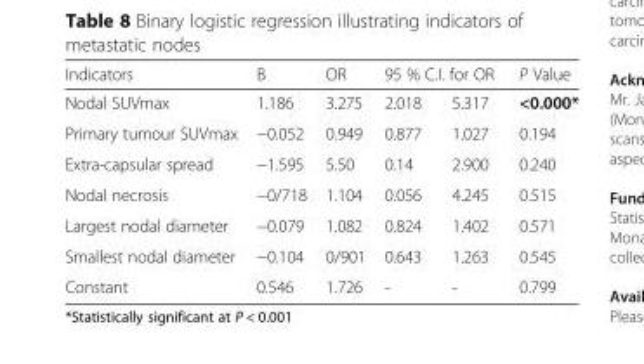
<table><thead><tr><td rowspan="2">Indicators Nodal SUVmax</td><td rowspan="2">B 1.186</td><td rowspan="2">OR 3.275</td><td colspan="2">95 % C.I. for OR</td><td rowspan="2">P Value &lt;0.000*</td></tr><tr><td>2.018</td><td>5.317</td></tr></thead><tbody><tr><td>Primary tumour SUVmax</td><td>−0.052</td><td>0.949</td><td>0.877</td><td>1.027</td><td>0.194</td></tr><tr><td>Extra-capsular spread</td><td>−1.595</td><td>5.50</td><td>0.14</td><td>2.900</td><td>0.240</td></tr><tr><td>Nodal necrosis</td><td>−0/718</td><td>1.104</td><td>0.056</td><td>4.245</td><td>0.515</td></tr><tr><td>Largest nodal diameter</td><td>−0.079</td><td>1.082</td><td>0.824</td><td>1.402</td><td>0.571</td></tr><tr><td>Smallest nodal diameter</td><td>−0.104</td><td>0/901</td><td>0.643</td><td>1.263</td><td>0.545</td></tr><tr><td>Constant</td><td>0.546</td><td>1.726</td><td>-</td><td>-</td><td>0.799</td></tr></tbody></table>